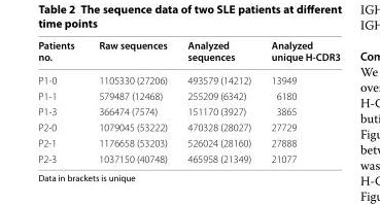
<table><thead><tr><td>Patients no.</td><td>Raw sequences</td><td>Analyzed sequences</td><td>Analyzed unique H‑CDR3</td></tr></thead><tbody><tr><td>P1-0</td><td>1105330 (27206)</td><td>493579 (14212)</td><td>13949</td></tr><tr><td>P1-1</td><td>579487 (12468)</td><td>255209 (6342)</td><td>6180</td></tr><tr><td>P1-3</td><td>366474 (7574)</td><td>151170 (3927)</td><td>3865</td></tr><tr><td>P2-0</td><td>1079045 (53222)</td><td>470328 (28027)</td><td>27729</td></tr><tr><td>P2-1</td><td>1176658 (53203)</td><td>526024 (28160)</td><td>27888</td></tr><tr><td>P2-3</td><td>1037150 (40748)</td><td>465958 (21349)</td><td>21077</td></tr></tbody></table>